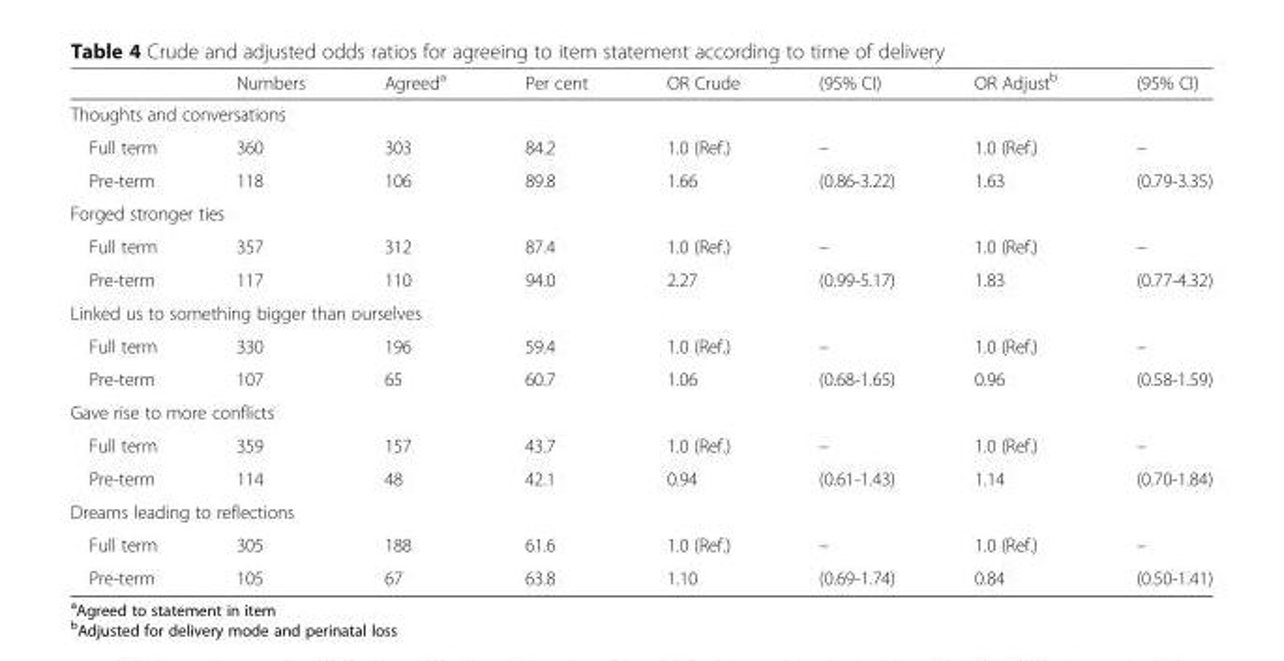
<table><thead><tr><td></td><td>Numbers</td><td>Agreed<sup>a</sup></td><td>Per cent</td><td>OR Crude</td><td>(95% CI)</td><td>OR Adjust<sup>b</sup></td><td>(95% CI)</td></tr></thead><tbody><tr><td colspan="8">Thoughts and conversations</td></tr><tr><td>Full term</td><td>360</td><td>303</td><td>84.2</td><td>1.0 (Ref.)</td><td>–</td><td>1.0 (Ref.)</td><td>–</td></tr><tr><td>Pre-term</td><td>118</td><td>106</td><td>89.8</td><td>1.66</td><td>(0.86-3.22)</td><td>1.63</td><td>(0.79-3.35)</td></tr><tr><td colspan="8">Forged stronger ties</td></tr><tr><td>Full term</td><td>357</td><td>312</td><td>87.4</td><td>1.0 (Ref.)</td><td>–</td><td>1.0 (Ref.)</td><td>–</td></tr><tr><td>Pre-term</td><td>117</td><td>110</td><td>94.0</td><td>2.27</td><td>(0.99-5.17)</td><td>1.83</td><td>(0.77-4.32)</td></tr><tr><td colspan="8">Linked us to something bigger than ourselves</td></tr><tr><td>Full term</td><td>330</td><td>196</td><td>59.4</td><td>1.0 (Ref.)</td><td>–</td><td>1.0 (Ref.)</td><td>–</td></tr><tr><td>Pre-term</td><td>107</td><td>65</td><td>60.7</td><td>1.06</td><td>(0.68-1.65)</td><td>0.96</td><td>(0.58-1.59)</td></tr><tr><td colspan="8">Gave rise to more conflicts</td></tr><tr><td>Full term</td><td>359</td><td>157</td><td>43.7</td><td>1.0 (Ref.)</td><td>–</td><td>1.0 (Ref.)</td><td>–</td></tr><tr><td>Pre-term</td><td>114</td><td>48</td><td>42.1</td><td>0.94</td><td>(0.61-1.43)</td><td>1.14</td><td>(0.70-1.84)</td></tr><tr><td colspan="8">Dreams leading to reflections</td></tr><tr><td>Full term</td><td>305</td><td>188</td><td>61.6</td><td>1.0 (Ref.)</td><td>–</td><td>1.0 (Ref.)</td><td>–</td></tr><tr><td>Pre-term</td><td>105</td><td>67</td><td>63.8</td><td>1.10</td><td>(0.69-1.74)</td><td>0.84</td><td>(0.50-1.41)</td></tr></tbody></table>